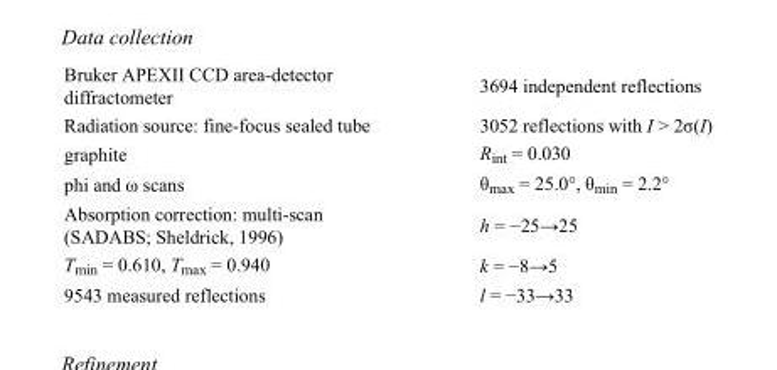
<table><tbody><tr><td>Bruker APEXII CCD area-detector diffractometer</td><td>3694 independent reflections</td></tr><tr><td>Radiation source: fine-focus sealed tube</td><td>3052 reflections with I &gt; 2σ(I)</td></tr><tr><td>graphite</td><td>R<sub>int</sub> = 0.030</td></tr><tr><td>phi and ω scans</td><td>θ<sub>max</sub> = 25.0°, θ<sub>min</sub> = 2.2°</td></tr><tr><td>Absorption correction: multi-scan (SADABS; Sheldrick, 1996)</td><td>h = −25→25</td></tr><tr><td>T<sub>min</sub> = 0.610, T<sub>max</sub> = 0.940</td><td>k = −8→5</td></tr><tr><td>9543 measured reflections</td><td>l = −33→33</td></tr></tbody></table>